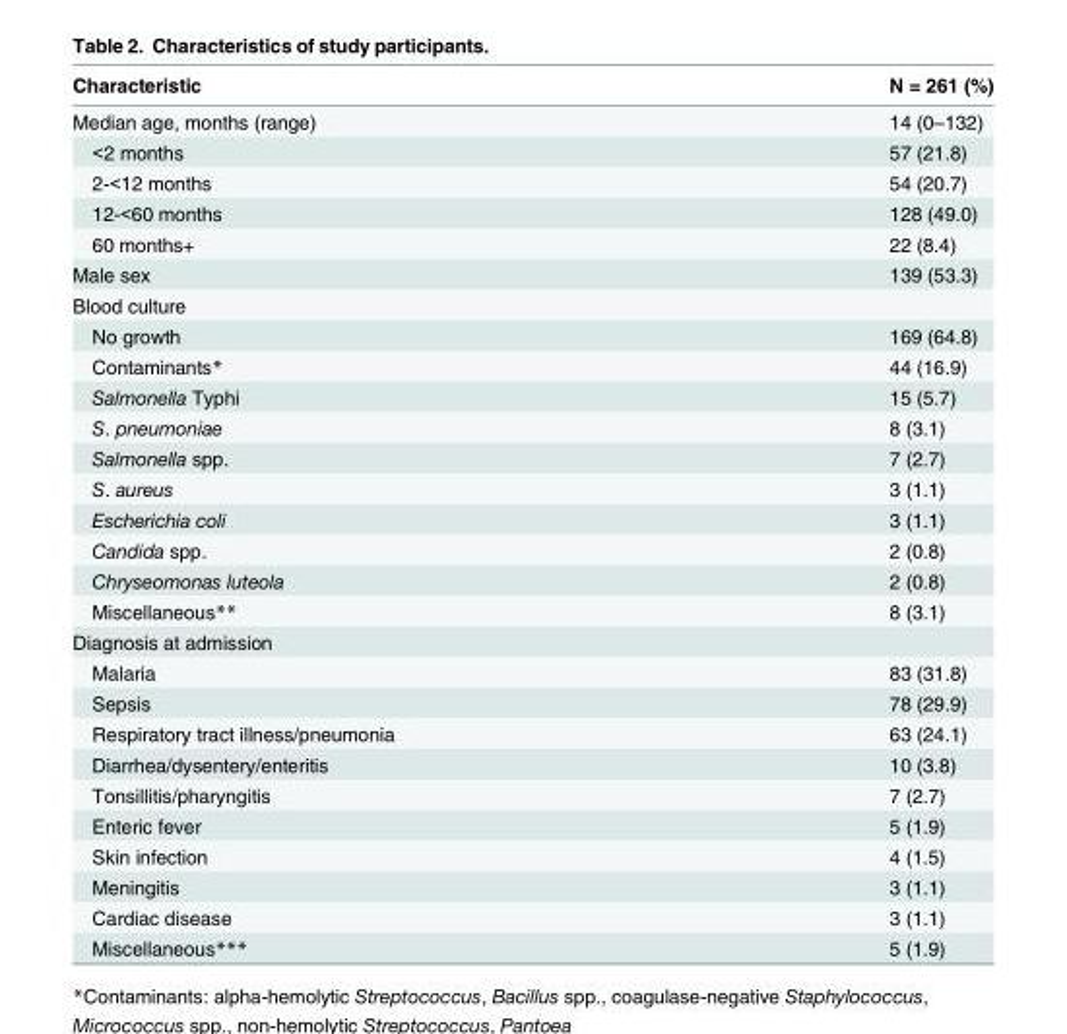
<table><thead><tr><td>Characteristic</td><td>N = 261 (%)</td></tr></thead><tbody><tr><td>Median age, months (range)</td><td>14 (0–132)</td></tr><tr><td>&lt;2 months</td><td>57 (21.8)</td></tr><tr><td>2-&lt;12 months</td><td>54 (20.7)</td></tr><tr><td>12-&lt;60 months</td><td>128 (49.0)</td></tr><tr><td>60 months+</td><td>22 (8.4)</td></tr><tr><td>Male sex</td><td>139 (53.3)</td></tr><tr><td colspan="2">Blood culture</td></tr><tr><td>No growth</td><td>169 (64.8)</td></tr><tr><td>Contaminants*</td><td>44 (16.9)</td></tr><tr><td>Salmonella Typhi</td><td>15 (5.7)</td></tr><tr><td>S. pneumoniae</td><td>8 (3.1)</td></tr><tr><td>Salmonella spp.</td><td>7 (2.7)</td></tr><tr><td>S. aureus</td><td>3 (1.1)</td></tr><tr><td>Escherichia coli</td><td>3 (1.1)</td></tr><tr><td>Candida spp.</td><td>2 (0.8)</td></tr><tr><td>Chryseomonas luteola</td><td>2 (0.8)</td></tr><tr><td>Miscellaneous**</td><td>8 (3.1)</td></tr><tr><td colspan="2">Diagnosis at admission</td></tr><tr><td>Malaria</td><td>83 (31.8)</td></tr><tr><td>Sepsis</td><td>78 (29.9)</td></tr><tr><td>Respiratory tract illness/pneumonia</td><td>63 (24.1)</td></tr><tr><td>Diarrhea/dysentery/enteritis</td><td>10 (3.8)</td></tr><tr><td>Tonsillitis/pharyngitis</td><td>7 (2.7)</td></tr><tr><td>Enteric fever</td><td>5 (1.9)</td></tr><tr><td>Skin infection</td><td>4 (1.5)</td></tr><tr><td>Meningitis</td><td>3 (1.1)</td></tr><tr><td>Cardiac disease</td><td>3 (1.1)</td></tr><tr><td>Miscellaneous***</td><td>5 (1.9)</td></tr></tbody></table>